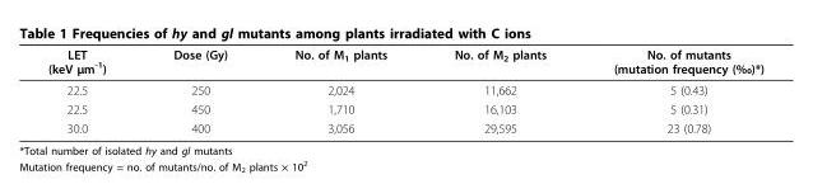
<table><thead><tr><td>LET (keV μm<sup>-1</sup>)</td><td>Dose (Gy)</td><td>No. of M<sub>1</sub> plants</td><td>No. of M<sub>2</sub> plants</td><td>No. of mutants (mutation frequency (‰)*)</td></tr></thead><tbody><tr><td>22.5</td><td>250</td><td>2,024</td><td>11,662</td><td>5 (0.43)</td></tr><tr><td>22.5</td><td>450</td><td>1,710</td><td>16,103</td><td>5 (0.31)</td></tr><tr><td>30.0</td><td>400</td><td>3,056</td><td>29,595</td><td>23 (0.78)</td></tr></tbody></table>